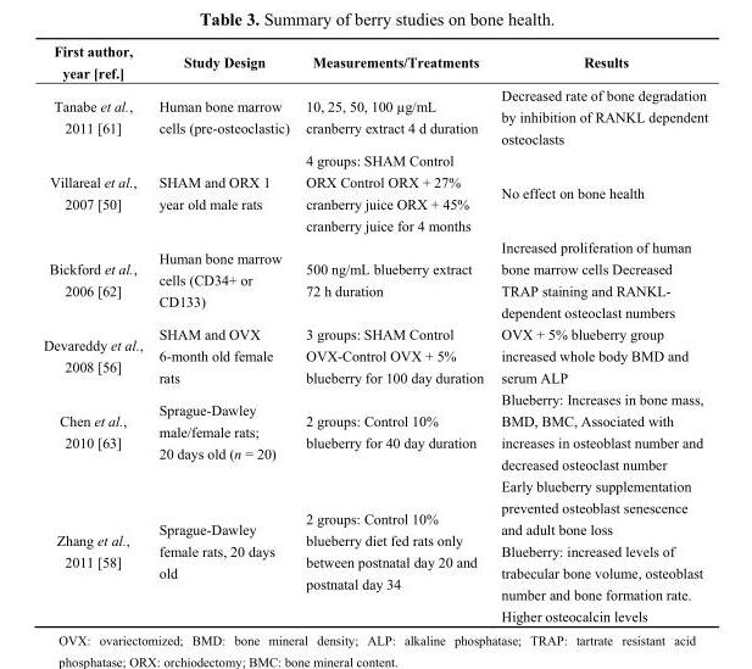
<table><thead><tr><td>First author, year [ref.]</td><td>Study Design</td><td>Measurements/Treatments</td><td>Results</td></tr></thead><tbody><tr><td>Tanabe et al., 2011 [61]</td><td>Human bone marrow cells (pre-osteoclastic)</td><td>10, 25, 50, 100 µg/mL cranberry extract 4 d duration</td><td>Decreased rate of bone degradation by inhibition of RANKL dependent osteoclasts</td></tr><tr><td>Villareal et al., 2007 [50]</td><td>SHAM and ORX 1 year old male rats</td><td>4 groups: SHAM Control ORX Control ORX + 27% cranberry juice ORX + 45% cranberry juice for 4 months</td><td>No effect on bone health</td></tr><tr><td>Bickford et al., 2006 [62]</td><td>Human bone marrow cells (CD34+ or CD133)</td><td>500 ng/mL blueberry extract 72 h duration</td><td>Increased proliferation of human bone marrow cells Decreased TRAP staining and RANKL- dependent osteoclast numbers</td></tr><tr><td>Devareddy et al., 2008 [56]</td><td>SHAM and OVX 6-month old female rats</td><td>3 groups: SHAM Control OVX-Control OVX + 5% blueberry for 100 day duration</td><td>OVX + 5% blueberry group increased whole body BMD and serum ALP</td></tr><tr><td>Chen et al., 2010 [63]</td><td>Sprague-Dawley male/female rats; 20 days old (n = 20)</td><td>2 groups: Control 10% blueberry for 40 day duration</td><td>Blueberry: Increases in bone mass, BMD, BMC, Associated with increases in osteoblast number and decreased osteoclast number</td></tr><tr><td>Zhang et al., 2011 [58]</td><td>Sprague-Dawley female rats, 20 days old</td><td>2 groups: Control 10% blueberry diet fed rats only between postnatal day 20 and postnatal day 34</td><td>Early blueberry supplementation prevented osteoblast senescence and adult bone loss Blueberry: increased levels of trabecular bone volume, osteoblast number and bone formation rate. Higher osteocalcin levels</td></tr></tbody></table>